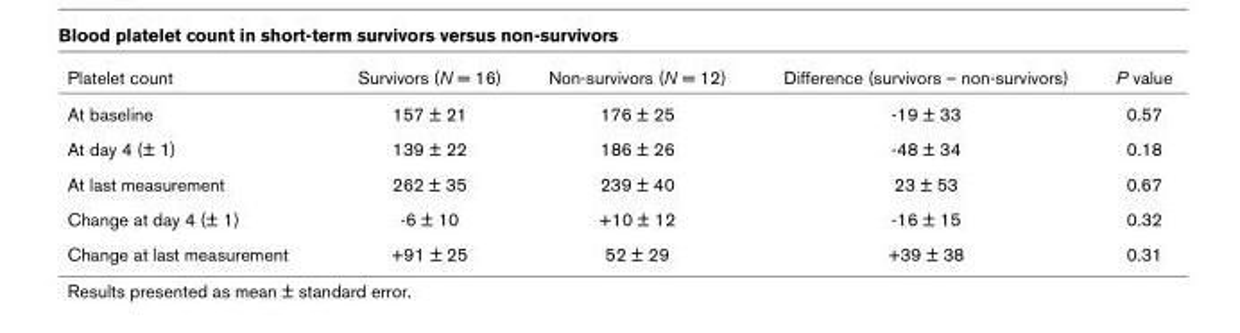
<table><thead><tr><td>Platelet count</td><td>Survivors (N = 16)</td><td>Non-survivors (N = 12)</td><td>Difference (survivors – non-survivors)</td><td>P value</td></tr></thead><tbody><tr><td>At baseline</td><td>157 ± 21</td><td>176 ± 25</td><td>-19 ± 33</td><td>0.57</td></tr><tr><td>At day 4 (± 1)</td><td>139 ± 22</td><td>186 ± 26</td><td>-48 ± 34</td><td>0.18</td></tr><tr><td>At last measurement</td><td>262 ± 35</td><td>239 ± 40</td><td>23 ± 53</td><td>0.67</td></tr><tr><td>Change at day 4 (± 1)</td><td>-6 ± 10</td><td>+10 ± 12</td><td>-16 ± 15</td><td>0.32</td></tr><tr><td>Change at last measurement</td><td>+91 ± 25</td><td>52 ± 29</td><td>+39 ± 38</td><td>0.31</td></tr></tbody></table>